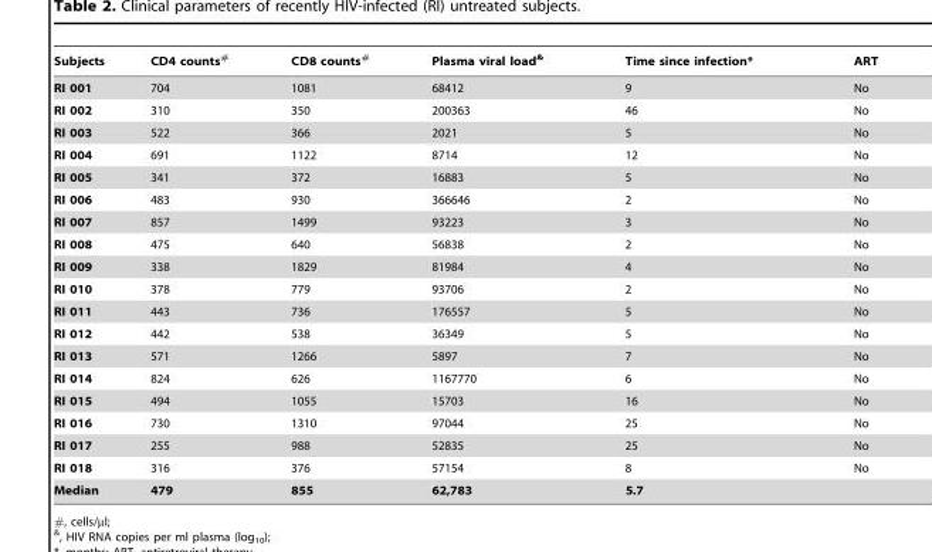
<table><thead><tr><td>Subjects</td><td>CD4 counts#</td><td>CD8 counts#</td><td>Plasma viral load&amp;</td><td>Time since infection*</td><td>ART</td></tr></thead><tbody><tr><td>RI 001</td><td>704</td><td>1081</td><td>68412</td><td>9</td><td>No</td></tr><tr><td>RI 002</td><td>310</td><td>350</td><td>200363</td><td>46</td><td>No</td></tr><tr><td>RI 003</td><td>522</td><td>366</td><td>2021</td><td>5</td><td>No</td></tr><tr><td>RI 004</td><td>691</td><td>1122</td><td>8714</td><td>12</td><td>No</td></tr><tr><td>RI 005</td><td>341</td><td>372</td><td>16883</td><td>5</td><td>No</td></tr><tr><td>RI 006</td><td>483</td><td>930</td><td>366646</td><td>2</td><td>No</td></tr><tr><td>RI 007</td><td>857</td><td>1499</td><td>93223</td><td>3</td><td>No</td></tr><tr><td>RI 008</td><td>475</td><td>640</td><td>56838</td><td>2</td><td>No</td></tr><tr><td>RI 009</td><td>338</td><td>1829</td><td>81984</td><td>4</td><td>No</td></tr><tr><td>RI 010</td><td>378</td><td>779</td><td>93706</td><td>2</td><td>No</td></tr><tr><td>RI 011</td><td>443</td><td>736</td><td>176557</td><td>5</td><td>No</td></tr><tr><td>RI 012</td><td>442</td><td>538</td><td>36349</td><td>5</td><td>No</td></tr><tr><td>RI 013</td><td>571</td><td>1266</td><td>5897</td><td>7</td><td>No</td></tr><tr><td>RI 014</td><td>824</td><td>626</td><td>1167770</td><td>6</td><td>No</td></tr><tr><td>RI 015</td><td>494</td><td>1055</td><td>15703</td><td>16</td><td>No</td></tr><tr><td>RI 016</td><td>730</td><td>1310</td><td>97044</td><td>25</td><td>No</td></tr><tr><td>RI 017</td><td>255</td><td>988</td><td>52835</td><td>25</td><td>No</td></tr><tr><td>RI 018</td><td>316</td><td>376</td><td>57154</td><td>8</td><td>No</td></tr><tr><td>Median</td><td>479</td><td>855</td><td>62,783</td><td>5.7</td><td></td></tr></tbody></table>